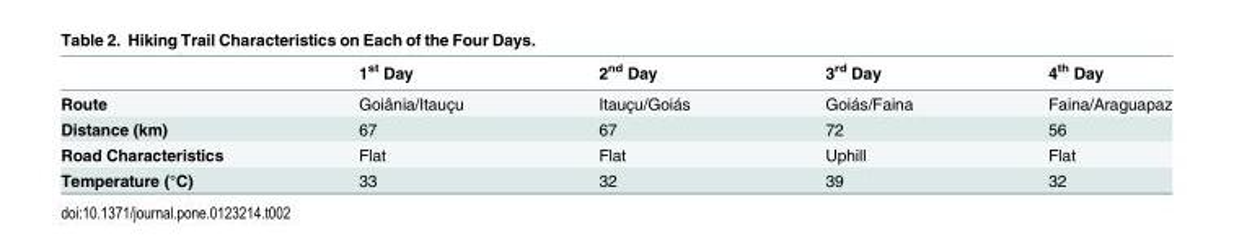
<table><thead><tr><td></td><td>1<sup>st</sup> Day</td><td>2<sup>nd</sup> Day</td><td>3<sup>rd</sup> Day</td><td>4<sup>th</sup> Day</td></tr></thead><tbody><tr><td>Route</td><td>Goiânia/Itauçu</td><td>Itauçu/Goiás</td><td>Goiás/Faina</td><td>Faina/Araguapaz</td></tr><tr><td>Distance (km)</td><td>67</td><td>67</td><td>72</td><td>56</td></tr><tr><td>Road Characteristics</td><td>Flat</td><td>Flat</td><td>Uphill</td><td>Flat</td></tr><tr><td>Temperature (°C)</td><td>33</td><td>32</td><td>39</td><td>32</td></tr></tbody></table>